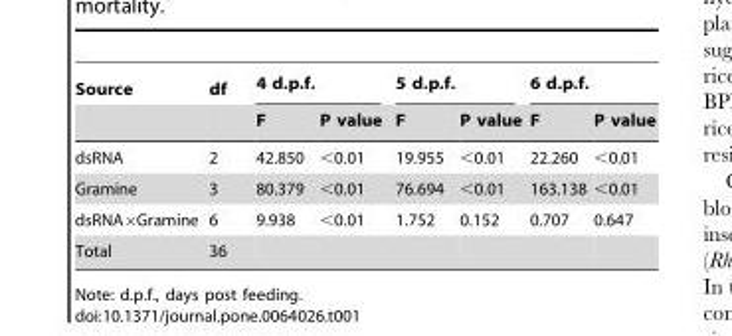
<table><thead><tr><td rowspan="2">Source</td><td rowspan="2">df</td><td colspan="2">4 d.p.f.</td><td colspan="2">5 d.p.f.</td><td colspan="2">6 d.p.f.</td></tr><tr><td>F</td><td>P value</td><td>F</td><td>P value</td><td>F</td><td>P value</td></tr></thead><tbody><tr><td>dsRNA</td><td>2</td><td>42.850</td><td>&lt;0.01</td><td>19.955</td><td>&lt;0.01</td><td>22.260</td><td>&lt;0.01</td></tr><tr><td>Gramine</td><td>3</td><td>80.379</td><td>&lt;0.01</td><td>76.694</td><td>&lt;0.01</td><td>163.138</td><td>&lt;0.01</td></tr><tr><td>dsRNA×Gramine</td><td>6</td><td>9.938</td><td>&lt;0.01</td><td>1.752</td><td>0.152</td><td>0.707</td><td>0.647</td></tr><tr><td>Total</td><td>36</td><td></td><td></td><td></td><td></td><td></td><td></td></tr></tbody></table>